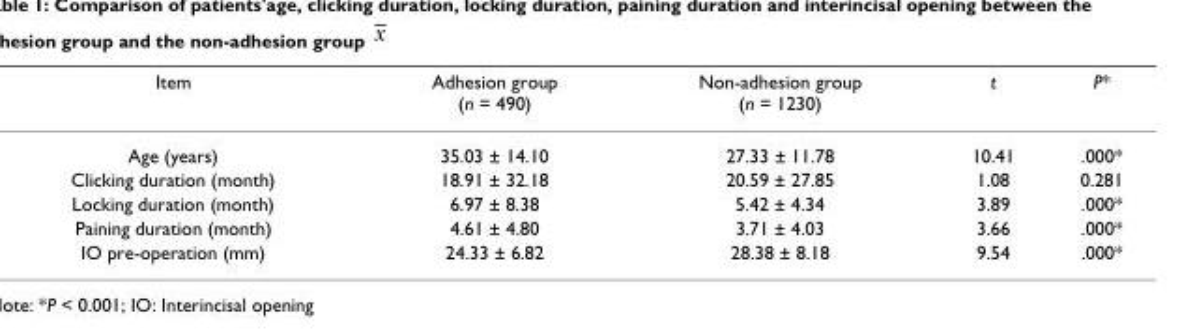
<table><thead><tr><td>Item</td><td>Adhesion group (n = 490)</td><td>Non-adhesion group (n = 1230)</td><td>t</td><td>P*</td></tr></thead><tbody><tr><td>Age (years)</td><td>35.03 ± 14.10</td><td>27.33 ± 11.78</td><td>10.41</td><td>.000*</td></tr><tr><td>Clicking duration (month)</td><td>18.91 ± 32.18</td><td>20.59 ± 27.85</td><td>1.08</td><td>0.281</td></tr><tr><td>Locking duration (month)</td><td>6.97 ± 8.38</td><td>5.42 ± 4.34</td><td>3.89</td><td>.000*</td></tr><tr><td>Paining duration (month)</td><td>4.61 ± 4.80</td><td>3.71 ± 4.03</td><td>3.66</td><td>.000*</td></tr><tr><td>IO pre-operation (mm)</td><td>24.33 ± 6.82</td><td>28.38 ± 8.18</td><td>9.54</td><td>.000*</td></tr></tbody></table>